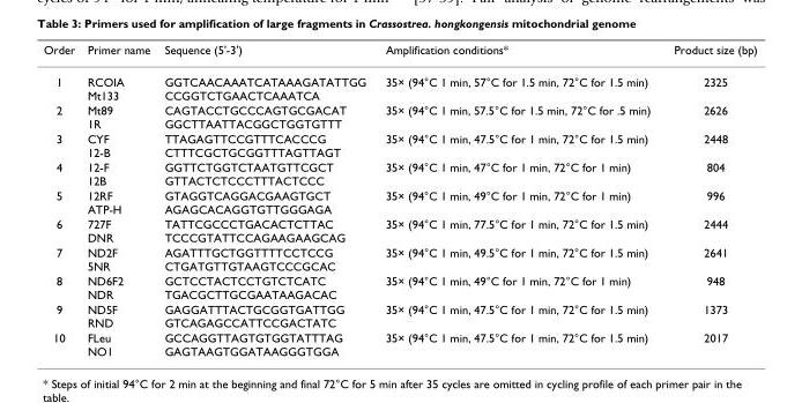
<table><thead><tr><td>Order</td><td>Primer name</td><td>Sequence (5&#x27;-3&#x27;)</td><td>Amplification conditions*</td><td>Product size (bp)</td></tr></thead><tbody><tr><td>1</td><td>RCOIA Mt133</td><td>GGTCAACAAATCATAAAGATATTGG CCGGTCTGAACTCAAATCA</td><td>35× (94°C 1 min, 57°C for 1.5 min, 72°C for 1.5 min)</td><td>2325</td></tr><tr><td>2</td><td>Mt89 1R</td><td>CAGTACCTGCCCAGTGCGACAT GGCTTAATTACGGCTGGTGTTT</td><td>35× (94°C 1 min, 57.5°C for 1.5 min, 72°C for .5 min)</td><td>2626</td></tr><tr><td>3</td><td>CYF 12-B</td><td>TTAGAGTTCCGTTTCACCCG CTTTCGCTGCGGTTTAGTTAGT</td><td>35× (94°C 1 min, 47.5°C for 1 min, 72°C for 1.5 min)</td><td>2448</td></tr><tr><td>4</td><td>12-F 12B</td><td>GGTTCTGGTCTAATGTTCGCT GTTACTCTCCCTTTACTCCC</td><td>35× (94°C 1 min, 47°C for 1 min, 72°C for 1 min)</td><td>804</td></tr><tr><td>5</td><td>12RF ATP-H</td><td>GTAGGTCAGGACGAAGTGCT AGAGCACAGGTGTTGGGAGA</td><td>35× (94°C 1 min, 49°C for 1 min, 72°C for 1 min)</td><td>996</td></tr><tr><td>6</td><td>727F DNR</td><td>TATTCGCCCTGACACTCTTAC TCCCGTATTCCAGAAGAAGCAG</td><td>35× (94°C 1 min, 77.5°C for 1 min, 72°C for 1.5 min)</td><td>2444</td></tr><tr><td>7</td><td>ND2F 5NR</td><td>AGATTTGCTGGTTTTCCTCCG CTGATGTTGTAAGTCCCGCAC</td><td>35× (94°C 1 min, 49.5°C for 1 min, 72°C for 1.5 min)</td><td>2641</td></tr><tr><td>8</td><td>ND6F2 NDR</td><td>GCTCCTACTCCTGTCTCATC TGACGCTTGCGAATAAGACAC</td><td>35× (94°C 1 min, 49°C for 1 min, 72°C for 1 min)</td><td>948</td></tr><tr><td>9</td><td>ND5F RND</td><td>GAGGATTTACTGCGGTGATTGG GTCAGAGCCATTCCGACTATC</td><td>35× (94°C 1 min, 47.5°C for 1 min, 72°C for 1.5 min)</td><td>1373</td></tr><tr><td>10</td><td>FLeu NO1</td><td>GCCAGGTTAGTGTGGTATTTAG GAGTAAGTGGATAAGGGTGGA</td><td>35× (94°C 1 min, 47.5°C for 1 min, 72°C for 1.5 min)</td><td>2017</td></tr></tbody></table>